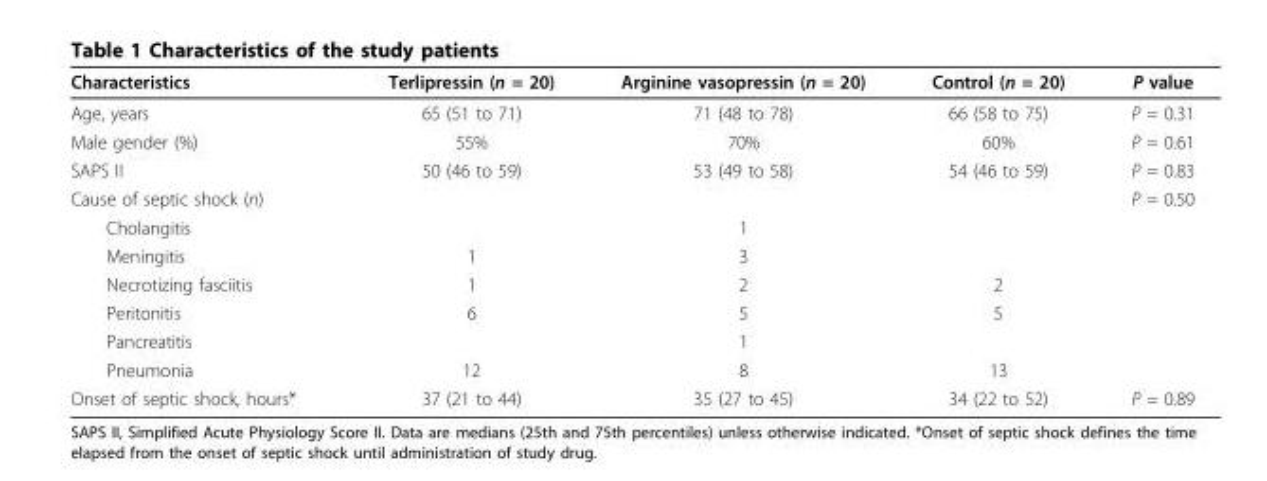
<table><thead><tr><td>Characteristics</td><td>Terlipressin (n = 20)</td><td>Arginine vasopressin (n = 20)</td><td>Control (n = 20)</td><td>P value</td></tr></thead><tbody><tr><td>Age, years</td><td>65 (51 to 71)</td><td>71 (48 to 78)</td><td>66 (58 to 75)</td><td>P = 0.31</td></tr><tr><td>Male gender (%)</td><td>55%</td><td>70%</td><td>60%</td><td>P = 0.61</td></tr><tr><td>SAPS II</td><td>50 (46 to 59)</td><td>53 (49 to 58)</td><td>54 (46 to 59)</td><td>P = 0.83</td></tr><tr><td>Cause of septic shock (n)</td><td></td><td></td><td></td><td>P = 0.50</td></tr><tr><td>Cholangitis</td><td></td><td>1</td><td></td><td></td></tr><tr><td>Meningitis</td><td>1</td><td>3</td><td></td><td></td></tr><tr><td>Necrotizing fasciitis</td><td>1</td><td>2</td><td>2</td><td></td></tr><tr><td>Peritonitis</td><td>6</td><td>5</td><td>5</td><td></td></tr><tr><td>Pancreatitis</td><td></td><td>1</td><td></td><td></td></tr><tr><td>Pneumonia</td><td>12</td><td>8</td><td>13</td><td></td></tr><tr><td>Onset of septic shock, hours*</td><td>37 (21 to 44)</td><td>35 (27 to 45)</td><td>34 (22 to 52)</td><td>P = 0.89</td></tr></tbody></table>